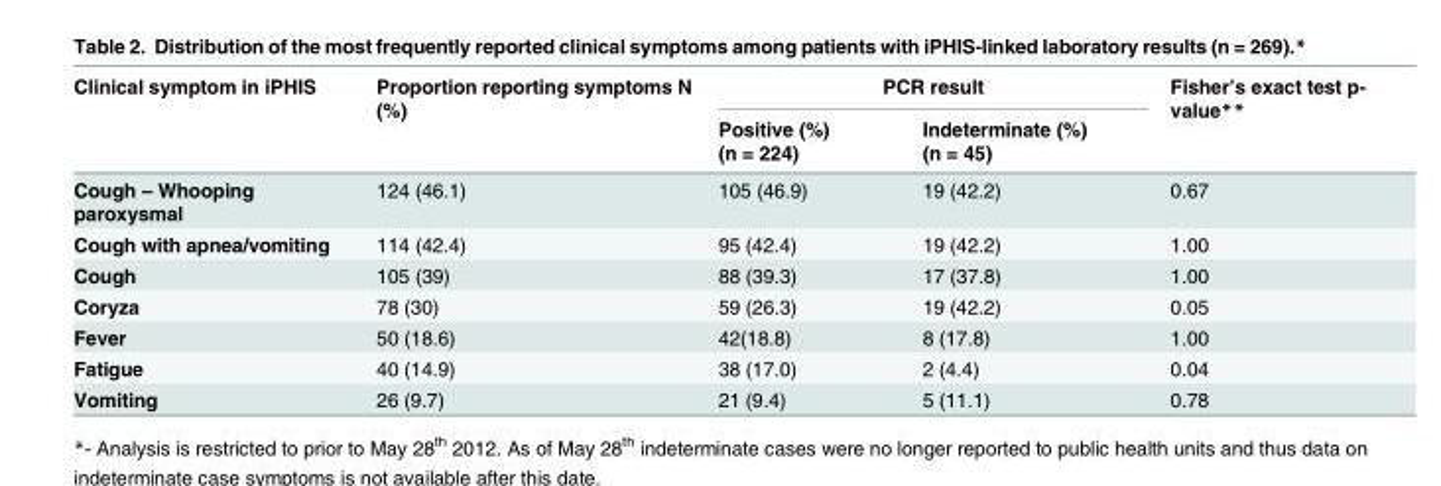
<table><thead><tr><td rowspan="2">Clinical symptom in iPHIS</td><td rowspan="2">Proportion reporting symptoms N (%)</td><td colspan="2">PCR result</td><td rowspan="2">Fisher’s exact test p- value**</td></tr><tr><td>Positive (%) (n = 224)</td><td>Indeterminate (%) (n = 45)</td></tr></thead><tbody><tr><td>Cough – Whooping paroxysmal</td><td>124 (46.1)</td><td>105 (46.9)</td><td>19 (42.2)</td><td>0.67</td></tr><tr><td>Cough with apnea/vomiting</td><td>114 (42.4)</td><td>95 (42.4)</td><td>19 (42.2)</td><td>1.00</td></tr><tr><td>Cough</td><td>105 (39)</td><td>88 (39.3)</td><td>17 (37.8)</td><td>1.00</td></tr><tr><td>Coryza</td><td>78 (30)</td><td>59 (26.3)</td><td>19 (42.2)</td><td>0.05</td></tr><tr><td>Fever</td><td>50 (18.6)</td><td>42(18.8)</td><td>8 (17.8)</td><td>1.00</td></tr><tr><td>Fatigue</td><td>40 (14.9)</td><td>38 (17.0)</td><td>2 (4.4)</td><td>0.04</td></tr><tr><td>Vomiting</td><td>26 (9.7)</td><td>21 (9.4)</td><td>5 (11.1)</td><td>0.78</td></tr></tbody></table>